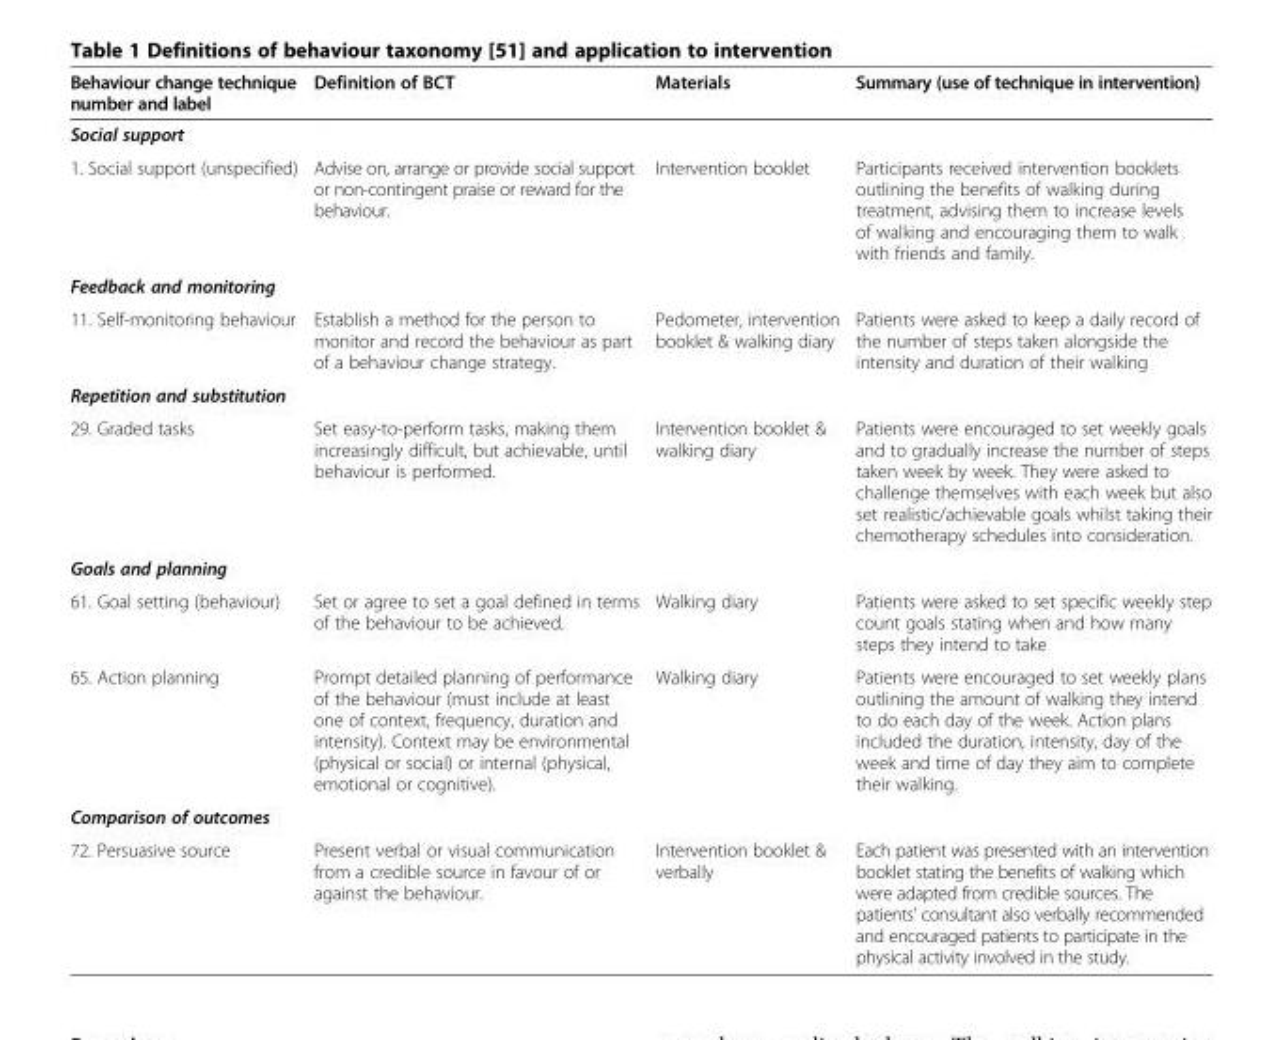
<table><thead><tr><td>Behaviour change technique number and label</td><td>Definition of BCT</td><td>Materials</td><td>Summary (use of technique in intervention)</td></tr></thead><tbody><tr><td colspan="4">Social support</td></tr><tr><td>1. Social support (unspecified)</td><td>Advise on, arrange or provide social support or non-contingent praise or reward for the behaviour.</td><td>Intervention booklet</td><td>Participants received intervention booklets outlining the benefits of walking during treatment, advising them to increase levels of walking and encouraging them to walk with friends and family.</td></tr><tr><td colspan="4">Feedback and monitoring</td></tr><tr><td>11. Self-monitoring behaviour</td><td>Establish a method for the person to monitor and record the behaviour as part of a behaviour change strategy.</td><td>Pedometer, intervention booklet &amp; walking diary</td><td>Patients were asked to keep a daily record of the number of steps taken alongside the intensity and duration of their walking</td></tr><tr><td colspan="4">Repetition and substitution</td></tr><tr><td>29. Graded tasks</td><td>Set easy-to-perform tasks, making them increasingly difficult, but achievable, until behaviour is performed.</td><td>Intervention booklet &amp; walking diary</td><td>Patients were encouraged to set weekly goals and to gradually increase the number of steps taken week by week. They were asked to challenge themselves with each week but also set realistic/achievable goals whilst taking their chemotherapy schedules into consideration.</td></tr><tr><td colspan="4">Goals and planning</td></tr><tr><td>61. Goal setting (behaviour)</td><td>Set or agree to set a goal defined in terms of the behaviour to be achieved.</td><td>Walking diary</td><td>Patients were asked to set specific weekly step count goals stating when and how many steps they intend to take</td></tr><tr><td>65. Action planning</td><td>Prompt detailed planning of performance of the behaviour (must include at least one of context, frequency, duration and intensity). Context may be environmental (physical or social) or internal (physical, emotional or cognitive).</td><td>Walking diary</td><td>Patients were encouraged to set weekly plans outlining the amount of walking they intend to do each day of the week. Action plans included the duration, intensity, day of the week and time of day they aim to complete their walking.</td></tr><tr><td colspan="4">Comparison of outcomes</td></tr><tr><td>72. Persuasive source</td><td>Present verbal or visual communication from a credible source in favour of or against the behaviour.</td><td>Intervention booklet &amp; verbally</td><td>Each patient was presented with an intervention booklet stating the benefits of walking which were adapted from credible sources. The patients’ consultant also verbally recommended and encouraged patients to participate in the physical activity involved in the study.</td></tr></tbody></table>